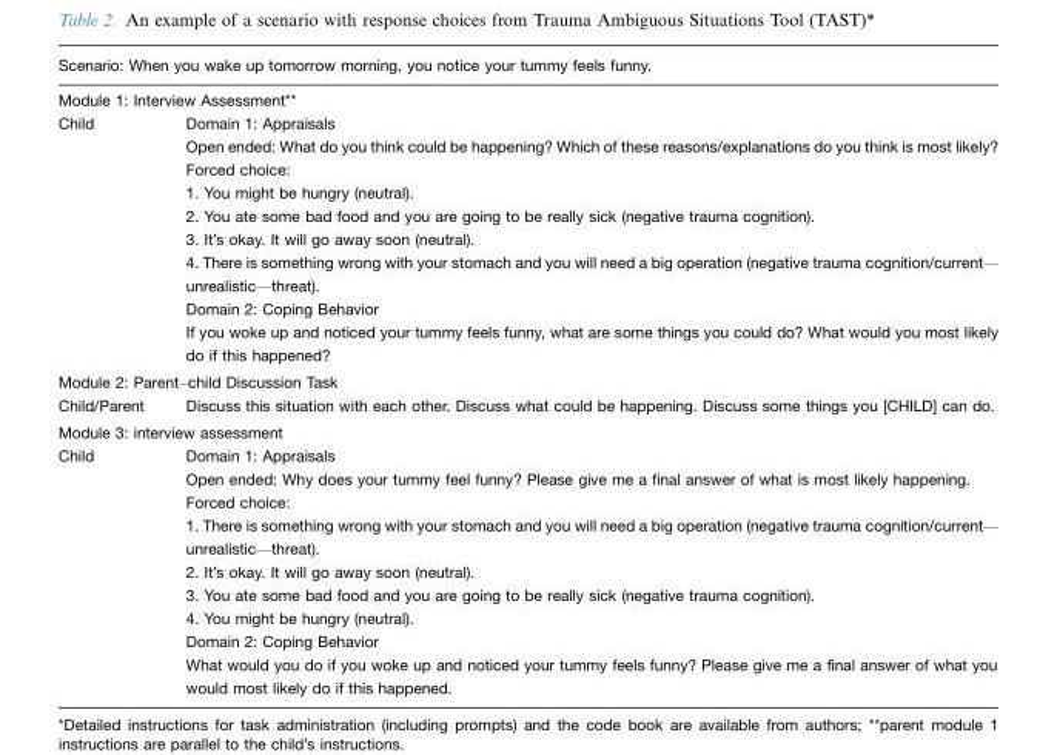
<table><thead><tr><td rowspan="2" colspan="2">Scenario: When you wake up tomorrow morning, you notice your tummy feels funny. Module 1: Interview Assessment**</td></tr><tr></tr><tr><td>Child</td><td>Domain 1: Appraisals</td></tr></thead><tbody><tr><td></td><td>Open ended: What do you think could be happening? Which of these reasons/explanations do you think is most likely?</td></tr><tr><td></td><td>Forced choice:</td></tr><tr><td></td><td>1. You might be hungry (neutral).</td></tr><tr><td></td><td>2. You ate some bad food and you are going to be really sick (negative trauma cognition).</td></tr><tr><td></td><td>3. It’s okay. It will go away soon (neutral).</td></tr><tr><td></td><td>4. There is something wrong with your stomach and you will need a big operation (negative trauma cognition/current* unrealistic*threat).</td></tr><tr><td></td><td>Domain 2: Coping Behavior</td></tr><tr><td></td><td>If you woke up and noticed your tummy feels funny, what are some things you could do? What would you most likely do if this happened?</td></tr><tr><td colspan="2">Module 2: Parent–child Discussion Task</td></tr><tr><td>Child/Parent</td><td>Discuss this situation with each other. Discuss what could be happening. Discuss some things you [CHILD] can do.</td></tr><tr><td colspan="2">Module 3: interview assessment</td></tr><tr><td rowspan="9">Child</td><td>Domain 1: Appraisals</td></tr><tr><td>Open ended: Why does your tummy feel funny? Please give me a final answer of what is most likely happening.</td></tr><tr><td>Forced choice:</td></tr><tr><td>1. There is something wrong with your stomach and you will need a big operation (negative trauma cognition/current* unrealistic*threat).</td></tr><tr><td>2. It’s okay. It will go away soon (neutral).</td></tr><tr><td>3. You ate some bad food and you are going to be really sick (negative trauma cognition).</td></tr><tr><td>4. You might be hungry (neutral).</td></tr><tr><td>Domain 2: Coping Behavior</td></tr><tr><td>What would you do if you woke up and noticed your tummy feels funny? Please give me a final answer of what you would most likely do if this happened.</td></tr></tbody></table>